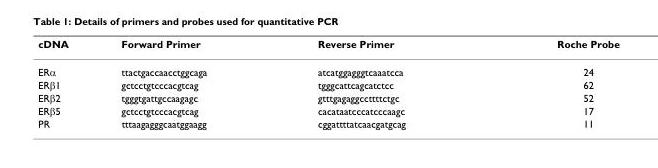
<table><thead><tr><td>cDNA</td><td>Forward Primer</td><td>Reverse Primer</td><td>Roche Probe</td></tr></thead><tbody><tr><td>ERα</td><td>ttactgaccaacctggcaga</td><td>atcatggagggtcaaatcca</td><td>24</td></tr><tr><td>ERβ1</td><td>gctcctgtcccacgtcag</td><td>tgggcattcagcatctcc</td><td>62</td></tr><tr><td>ERβ2</td><td>tgggtgattgccaagagc</td><td>gtttgagaggccttttctgc</td><td>52</td></tr><tr><td>ERβ5</td><td>gctcctgtcccacgtcag</td><td>cacataatcccatcccaagc</td><td>17</td></tr><tr><td>PR</td><td>tttaagagggcaatggaagg</td><td>cggattttatcaacgatgcag</td><td>11</td></tr></tbody></table>